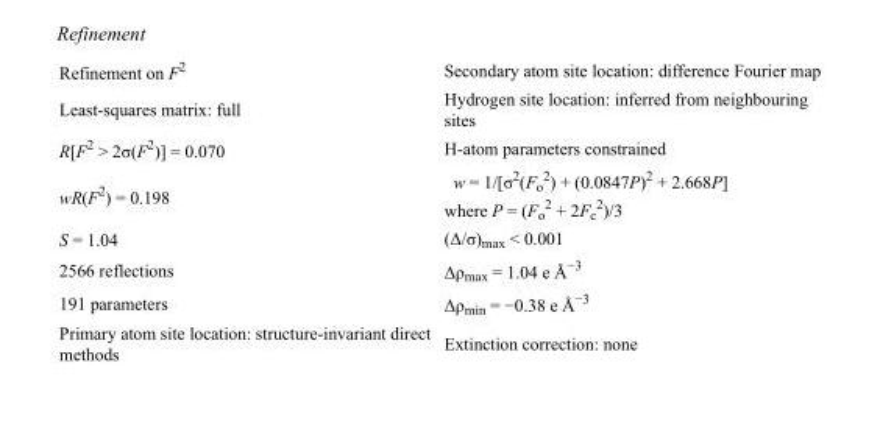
<table><tbody><tr><td>Refinement on F<sup>2</sup></td><td>Secondary atom site location: difference Fourier map</td></tr><tr><td>Least-squares matrix: full</td><td>Hydrogen site location: inferred from neighbouring sites</td></tr><tr><td>R[F<sup>2</sup> &gt; 2σ(F<sup>2</sup>)] = 0.070</td><td>H-atom parameters constrained</td></tr><tr><td>wR(F<sup>2</sup>) = 0.198</td><td>w = 1/[σ<sup>2</sup>(F<sub>o</sub> <sup>2</sup>) + (0.0847P)<sup>2</sup> + 2.668P] where P = (F<sub>o</sub> <sup>2</sup> + 2F<sub>c</sub> <sup>2</sup>)/3</td></tr><tr><td>S = 1.04</td><td>(Δ/σ)<sub>max</sub> &lt; 0.001</td></tr><tr><td>2566 reflections</td><td>Δρ<sub>max</sub> = 1.04 e Å<sup>−3</sup></td></tr><tr><td>191 parameters</td><td>Δρ<sub>min</sub> = −0.38 e Å<sup>−3</sup></td></tr><tr><td>Primary atom site location: structure-invariant direct methods</td><td>Extinction correction: none</td></tr></tbody></table>